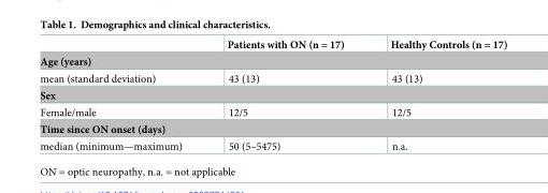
<table><thead><tr><td></td><td>Patients with ON (n = 17)</td><td>Healthy Controls (n = 17)</td></tr></thead><tbody><tr><td colspan="3">Age (years)</td></tr><tr><td>mean (standard deviation)</td><td>43 (13)</td><td>43 (13)</td></tr><tr><td colspan="3">Sex</td></tr><tr><td>Female/male</td><td>12/5</td><td>12/5</td></tr><tr><td colspan="3">Time since ON onset (days)</td></tr><tr><td>median (minimum—maximum)</td><td>50 (5–5475)</td><td>n.a.</td></tr></tbody></table>